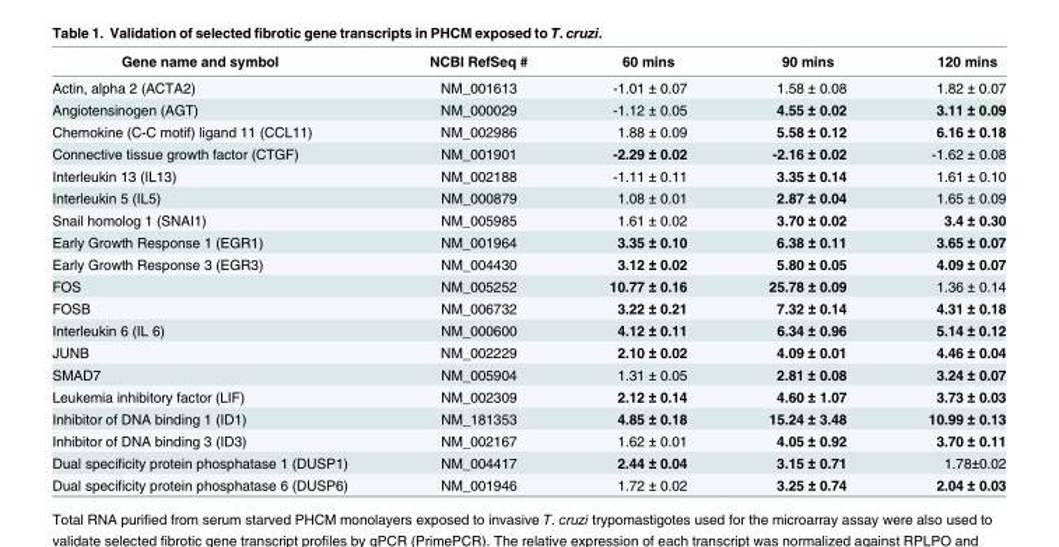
<table><thead><tr><td>Gene name and symbol</td><td>NCBI RefSeq #</td><td>60 mins</td><td>90 mins</td><td>120 mins</td></tr></thead><tbody><tr><td>Actin, alpha 2 (ACTA2)</td><td>NM_001613</td><td>-1.01 ± 0.07</td><td>1.58 ± 0.08</td><td>1.82 ± 0.07</td></tr><tr><td>Angiotensinogen (AGT)</td><td>NM_000029</td><td>-1.12 ± 0.05</td><td>4.55 ± 0.02</td><td>3.11 ± 0.09</td></tr><tr><td>Chemokine (C-C motif) ligand 11 (CCL11)</td><td>NM_002986</td><td>1.88 ± 0.09</td><td>5.58 ± 0.12</td><td>6.16 ± 0.18</td></tr><tr><td>Connective tissue growth factor (CTGF)</td><td>NM_001901</td><td>-2.29 ± 0.02</td><td>-2.16 ± 0.02</td><td>-1.62 ± 0.08</td></tr><tr><td>Interleukin 13 (IL13)</td><td>NM_002188</td><td>-1.11 ± 0.11</td><td>3.35 ± 0.14</td><td>1.61 ± 0.10</td></tr><tr><td>Interleukin 5 (IL5)</td><td>NM_000879</td><td>1.08 ± 0.01</td><td>2.87 ± 0.04</td><td>1.65 ± 0.09</td></tr><tr><td>Snail homolog 1 (SNAI1)</td><td>NM_005985</td><td>1.61 ± 0.02</td><td>3.70 ± 0.02</td><td>3.4 ± 0.30</td></tr><tr><td>Early Growth Response 1 (EGR1)</td><td>NM_001964</td><td>3.35 ± 0.10</td><td>6.38 ± 0.11</td><td>3.65 ± 0.07</td></tr><tr><td>Early Growth Response 3 (EGR3)</td><td>NM_004430</td><td>3.12 ± 0.02</td><td>5.80 ± 0.05</td><td>4.09 ± 0.07</td></tr><tr><td>FOS</td><td>NM_005252</td><td>10.77 ± 0.16</td><td>25.78 ± 0.09</td><td>1.36 ± 0.14</td></tr><tr><td>FOSB</td><td>NM_006732</td><td>3.22 ± 0.21</td><td>7.32 ± 0.14</td><td>4.31 ± 0.18</td></tr><tr><td>Interleukin 6 (IL 6)</td><td>NM_000600</td><td>4.12 ± 0.11</td><td>6.34 ± 0.96</td><td>5.14 ± 0.12</td></tr><tr><td>JUNB</td><td>NM_002229</td><td>2.10 ± 0.02</td><td>4.09 ± 0.01</td><td>4.46 ± 0.04</td></tr><tr><td>SMAD7</td><td>NM_005904</td><td>1.31 ± 0.05</td><td>2.81 ± 0.08</td><td>3.24 ± 0.07</td></tr><tr><td>Leukemia inhibitory factor (LIF)</td><td>NM_002309</td><td>2.12 ± 0.14</td><td>4.60 ± 1.07</td><td>3.73 ± 0.03</td></tr><tr><td>Inhibitor of DNA binding 1 (ID1)</td><td>NM_181353</td><td>4.85 ± 0.18</td><td>15.24 ± 3.48</td><td>10.99 ± 0.13</td></tr><tr><td>Inhibitor of DNA binding 3 (ID3)</td><td>NM_002167</td><td>1.62 ± 0.01</td><td>4.05 ± 0.92</td><td>3.70 ± 0.11</td></tr><tr><td>Dual specificity protein phosphatase 1 (DUSP1)</td><td>NM_004417</td><td>2.44 ± 0.04</td><td>3.15 ± 0.71</td><td>1.78±0.02</td></tr><tr><td>Dual specificity protein phosphatase 6 (DUSP6)</td><td>NM_001946</td><td>1.72 ± 0.02</td><td>3.25 ± 0.74</td><td>2.04 ± 0.03</td></tr></tbody></table>